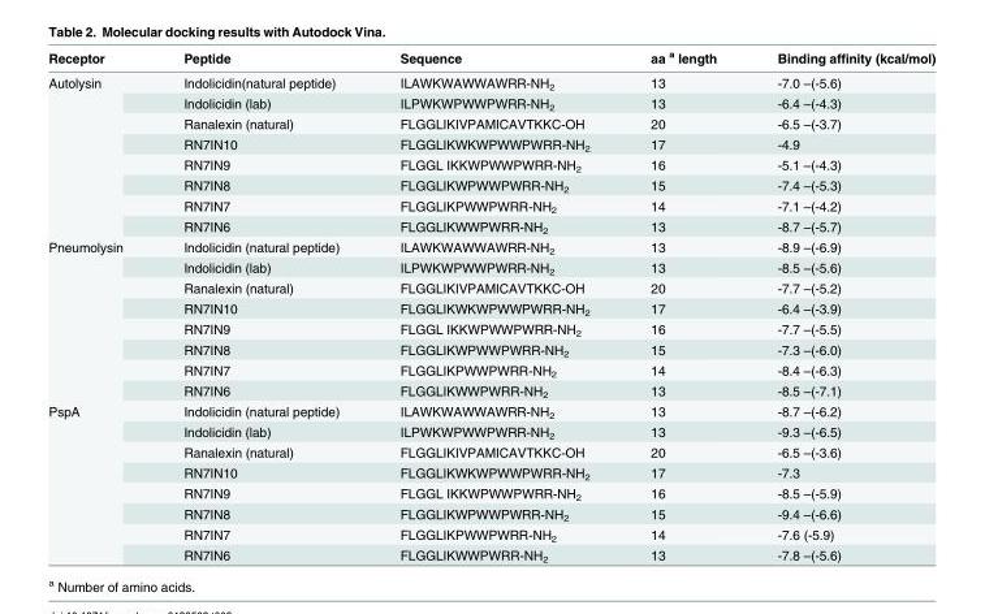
<table><thead><tr><td>Receptor</td><td>Peptide</td><td>Sequence</td><td>aa <sup>a</sup> length</td><td>Binding affinity (kcal/mol)</td></tr></thead><tbody><tr><td rowspan="8">Autolysin</td><td>Indolicidin(natural peptide)</td><td>ILAWKWAWWAWRR-NH<sub>2</sub></td><td>13</td><td>-7.0 –(-5.6)</td></tr><tr><td>Indolicidin (lab)</td><td>ILPWKWPWWPWRR-NH<sub>2</sub></td><td>13</td><td>-6.4 –(-4.3)</td></tr><tr><td>Ranalexin (natural)</td><td>FLGGLIKIVPAMICAVTKKC-OH</td><td>20</td><td>-6.5 –(-3.7)</td></tr><tr><td>RN7IN10</td><td>FLGGLIKWKWPWWPWRR-NH<sub>2</sub></td><td>17</td><td>-4.9</td></tr><tr><td>RN7IN9</td><td>FLGGL IKKWPWWPWRR-NH<sub>2</sub></td><td>16</td><td>-5.1 –(-4.3)</td></tr><tr><td>RN7IN8</td><td>FLGGLIKWPWWPWRR-NH<sub>2</sub></td><td>15</td><td>-7.4 –(-5.3)</td></tr><tr><td>RN7IN7</td><td>FLGGLIKPWWPWRR-NH<sub>2</sub></td><td>14</td><td>-7.1 –(-4.2)</td></tr><tr><td>RN7IN6</td><td>FLGGLIKWWPWRR-NH<sub>2</sub></td><td>13</td><td>-8.7 –(-5.7)</td></tr><tr><td rowspan="8">Pneumolysin</td><td>Indolicidin (natural peptide)</td><td>ILAWKWAWWAWRR-NH<sub>2</sub></td><td>13</td><td>-8.9 –(-6.9)</td></tr><tr><td>Indolicidin (lab)</td><td>ILPWKWPWWPWRR-NH<sub>2</sub></td><td>13</td><td>-8.5 –(-5.6)</td></tr><tr><td>Ranalexin (natural)</td><td>FLGGLIKIVPAMICAVTKKC-OH</td><td>20</td><td>-7.7 –(-5.2)</td></tr><tr><td>RN7IN10</td><td>FLGGLIKWKWPWWPWRR-NH<sub>2</sub></td><td>17</td><td>-6.4 –(-3.9)</td></tr><tr><td>RN7IN9</td><td>FLGGL IKKWPWWPWRR-NH<sub>2</sub></td><td>16</td><td>-7.7 –(-5.5)</td></tr><tr><td>RN7IN8</td><td>FLGGLIKWPWWPWRR-NH<sub>2</sub></td><td>15</td><td>-7.3 –(-6.0)</td></tr><tr><td>RN7IN7</td><td>FLGGLIKPWWPWRR-NH<sub>2</sub></td><td>14</td><td>-8.4 –(-6.3)</td></tr><tr><td>RN7IN6</td><td>FLGGLIKWWPWRR-NH<sub>2</sub></td><td>13</td><td>-8.5 –(-7.1)</td></tr><tr><td rowspan="8">PspA</td><td>Indolicidin (natural peptide)</td><td>ILAWKWAWWAWRR-NH<sub>2</sub></td><td>13</td><td>-8.7 –(-6.2)</td></tr><tr><td>Indolicidin (lab)</td><td>ILPWKWPWWPWRR-NH<sub>2</sub></td><td>13</td><td>-9.3 –(-6.5)</td></tr><tr><td>Ranalexin (natural)</td><td>FLGGLIKIVPAMICAVTKKC-OH</td><td>20</td><td>-6.5 –(-3.6)</td></tr><tr><td>RN7IN10</td><td>FLGGLIKWKWPWWPWRR-NH<sub>2</sub></td><td>17</td><td>-7.3</td></tr><tr><td>RN7IN9</td><td>FLGGL IKKWPWWPWRR-NH<sub>2</sub></td><td>16</td><td>-8.5 –(-5.9)</td></tr><tr><td>RN7IN8</td><td>FLGGLIKWPWWPWRR-NH<sub>2</sub></td><td>15</td><td>-9.4 –(-6.6)</td></tr><tr><td>RN7IN7</td><td>FLGGLIKPWWPWRR-NH<sub>2</sub></td><td>14</td><td>-7.6 (-5.9)</td></tr><tr><td>RN7IN6</td><td>FLGGLIKWWPWRR-NH<sub>2</sub></td><td>13</td><td>-7.8 –(-5.6)</td></tr></tbody></table>